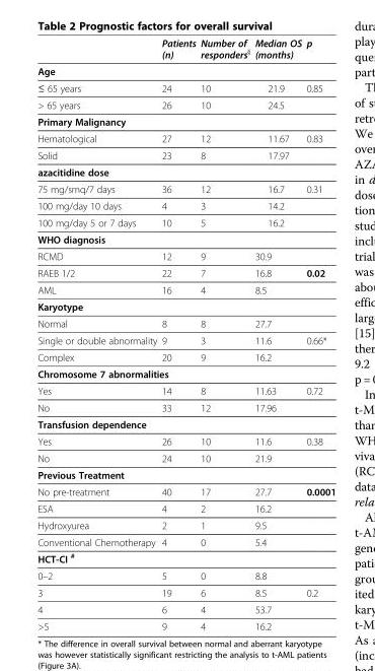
<table><thead><tr><td></td><td>Patients (n)</td><td>Number of responders<sup>§</sup></td><td>Median OS (months)</td><td>p</td></tr></thead><tbody><tr><td colspan="5">Age</td></tr><tr><td>≤ 65 years</td><td>24</td><td>10</td><td>21.9</td><td>0.85</td></tr><tr><td>&gt; 65 years</td><td>26</td><td>10</td><td>24.5</td><td></td></tr><tr><td colspan="5">Primary Malignancy</td></tr><tr><td>Hematological</td><td>27</td><td>12</td><td>11.67</td><td>0.83</td></tr><tr><td>Solid</td><td>23</td><td>8</td><td>17.97</td><td></td></tr><tr><td colspan="5">azacitidine dose</td></tr><tr><td>75 mg/smq/7 days</td><td>36</td><td>12</td><td>16.7</td><td>0.31</td></tr><tr><td>100 mg/day 10 days</td><td>4</td><td>3</td><td>14.2</td><td></td></tr><tr><td>100 mg/day 5 or 7 days</td><td>10</td><td>5</td><td>16.2</td><td></td></tr><tr><td colspan="5">WHO diagnosis</td></tr><tr><td>RCMD</td><td>12</td><td>9</td><td>30.9</td><td></td></tr><tr><td>RAEB 1/2</td><td>22</td><td>7</td><td>16.8</td><td>0.02</td></tr><tr><td>AML</td><td>16</td><td>4</td><td>8.5</td><td></td></tr><tr><td colspan="5">Karyotype</td></tr><tr><td>Normal</td><td>8</td><td>8</td><td>27.7</td><td></td></tr><tr><td>Single or double abnormality</td><td>9</td><td>3</td><td>11.6</td><td>0.66*</td></tr><tr><td>Complex</td><td>20</td><td>9</td><td>16.2</td><td></td></tr><tr><td colspan="5">Chromosome 7 abnormalities</td></tr><tr><td>Yes</td><td>14</td><td>8</td><td>11.63</td><td>0.72</td></tr><tr><td>No</td><td>33</td><td>12</td><td>17.96</td><td></td></tr><tr><td colspan="5">Transfusion dependence</td></tr><tr><td>Yes</td><td>26</td><td>10</td><td>11.6</td><td>0.38</td></tr><tr><td>No</td><td>24</td><td>10</td><td>21.9</td><td></td></tr><tr><td colspan="5">Previous Treatment</td></tr><tr><td>No pre-treatment</td><td>40</td><td>17</td><td>27.7</td><td>0.0001</td></tr><tr><td>ESA</td><td>4</td><td>2</td><td>16.2</td><td></td></tr><tr><td>Hydroxyurea</td><td>2</td><td>1</td><td>9.5</td><td></td></tr><tr><td>Conventional Chemotherapy</td><td>4</td><td>0</td><td>5.4</td><td></td></tr><tr><td colspan="5">HCT-CI <sup>#</sup></td></tr><tr><td>0–2</td><td>5</td><td>0</td><td>8.8</td><td></td></tr><tr><td>3</td><td>19</td><td>6</td><td>8.5</td><td>0.2</td></tr><tr><td>4</td><td>6</td><td>4</td><td>53.7</td><td></td></tr><tr><td>&gt;5</td><td>9</td><td>4</td><td>16.2</td><td></td></tr></tbody></table>